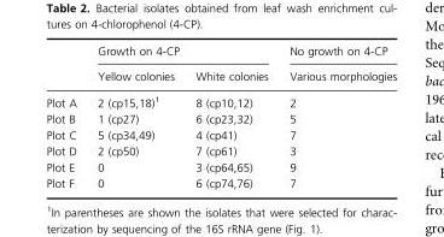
<table><thead><tr><td rowspan="2"></td><td colspan="2">Growth on 4-CP</td><td rowspan="2">No growth on 4-CP Various morphologies</td></tr><tr><td>Yellow colonies</td><td>White colonies</td></tr></thead><tbody><tr><td>Plot A</td><td>2 (cp15,18)<sup>1</sup></td><td>8 (cp10,12)</td><td>2</td></tr><tr><td>Plot B</td><td>1 (cp27)</td><td>6 (cp23,32)</td><td>5</td></tr><tr><td>Plot C</td><td>5 (cp34,49)</td><td>4 (cp41)</td><td>7</td></tr><tr><td>Plot D</td><td>2 (cp50)</td><td>7 (cp61)</td><td>3</td></tr><tr><td>Plot E</td><td>0</td><td>3 (cp64,65)</td><td>9</td></tr><tr><td>Plot F</td><td>0</td><td>6 (cp74,76)</td><td>7</td></tr></tbody></table>